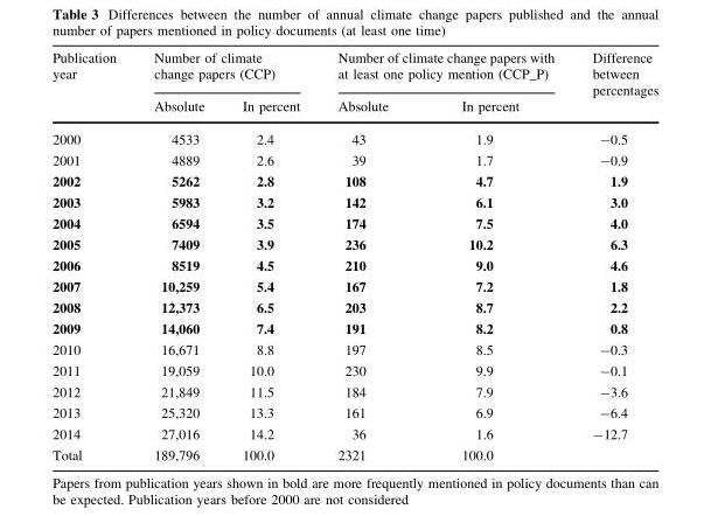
<table><thead><tr><td rowspan="2">Publication year</td><td colspan="2">Number of climate change papers (CCP)</td><td colspan="2">Number of climate change papers with at least one policy mention (CCP_P)</td><td rowspan="2">Difference between percentages</td></tr><tr><td>Absolute</td><td>In percent</td><td>Absolute</td><td>In percent</td></tr></thead><tbody><tr><td>2000</td><td>4533</td><td>2.4</td><td>43</td><td>1.9</td><td>-0.5</td></tr><tr><td>2001</td><td>4889</td><td>2.6</td><td>39</td><td>1.7</td><td>-0.9</td></tr><tr><td>2002</td><td>5262</td><td>2.8</td><td>108</td><td>4.7</td><td>1.9</td></tr><tr><td>2003</td><td>5983</td><td>3.2</td><td>142</td><td>6.1</td><td>3.0</td></tr><tr><td>2004</td><td>6594</td><td>3.5</td><td>174</td><td>7.5</td><td>4.0</td></tr><tr><td>2005</td><td>7409</td><td>3.9</td><td>236</td><td>10.2</td><td>6.3</td></tr><tr><td>2006</td><td>8519</td><td>4.5</td><td>210</td><td>9.0</td><td>4.6</td></tr><tr><td>2007</td><td>10,259</td><td>5.4</td><td>167</td><td>7.2</td><td>1.8</td></tr><tr><td>2008</td><td>12,373</td><td>6.5</td><td>203</td><td>8.7</td><td>2.2</td></tr><tr><td>2009</td><td>14,060</td><td>7.4</td><td>191</td><td>8.2</td><td>0.8</td></tr><tr><td>2010</td><td>16,671</td><td>8.8</td><td>197</td><td>8.5</td><td>-0.3</td></tr><tr><td>2011</td><td>19,059</td><td>10.0</td><td>230</td><td>9.9</td><td>-0.1</td></tr><tr><td>2012</td><td>21,849</td><td>11.5</td><td>184</td><td>7.9</td><td>-3.6</td></tr><tr><td>2013</td><td>25,320</td><td>13.3</td><td>161</td><td>6.9</td><td>-6.4</td></tr><tr><td>2014</td><td>27,016</td><td>14.2</td><td>36</td><td>1.6</td><td>-12.7</td></tr><tr><td>Total</td><td>189,796</td><td>100.0</td><td>2321</td><td>100.0</td><td></td></tr></tbody></table>